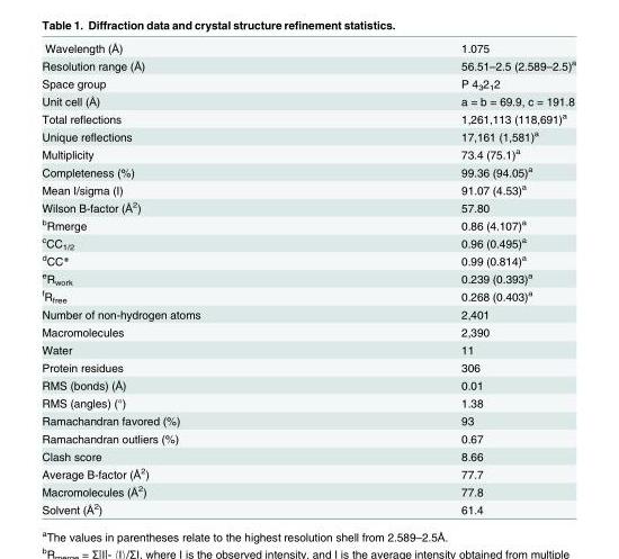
<table><tbody><tr><td>Wavelength (Å)</td><td>1.075</td></tr><tr><td>Resolution range (Å)</td><td>56.51–2.5 (2.589–2.5)<sup>a</sup></td></tr><tr><td>Space group</td><td>P 4<sub>3</sub>2<sub>1</sub>2</td></tr><tr><td>Unit cell (Å)</td><td>a = b = 69.9, c = 191.8</td></tr><tr><td>Total reflections</td><td>1,261,113 (118,691)<sup>a</sup></td></tr><tr><td>Unique reflections</td><td>17,161 (1,581)<sup>a</sup></td></tr><tr><td>Multiplicity</td><td>73.4 (75.1)<sup>a</sup></td></tr><tr><td>Completeness (%)</td><td>99.36 (94.05)<sup>a</sup></td></tr><tr><td>Mean I/sigma (I)</td><td>91.07 (4.53)<sup>a</sup></td></tr><tr><td>Wilson B-factor (Å<sup>2</sup>)</td><td>57.80</td></tr><tr><td><sup>b</sup>Rmerge</td><td>0.86 (4.107)<sup>a</sup></td></tr><tr><td><sup>c</sup>CC<sub>1/2</sub></td><td>0.96 (0.495)<sup>a</sup></td></tr><tr><td><sup>d</sup>CC*</td><td>0.99 (0.814)<sup>a</sup></td></tr><tr><td><sup>e</sup>R<sub>work</sub></td><td>0.239 (0.393)<sup>a</sup></td></tr><tr><td><sup>f</sup>R<sub>free</sub></td><td>0.268 (0.403)<sup>a</sup></td></tr><tr><td>Number of non-hydrogen atoms</td><td>2,401</td></tr><tr><td>Macromolecules</td><td>2,390</td></tr><tr><td>Water</td><td>11</td></tr><tr><td>Protein residues</td><td>306</td></tr><tr><td>RMS (bonds) (Å)</td><td>0.01</td></tr><tr><td>RMS (angles) (°)</td><td>1.38</td></tr><tr><td>Ramachandran favored (%)</td><td>93</td></tr><tr><td>Ramachandran outliers (%)</td><td>0.67</td></tr><tr><td>Clash score</td><td>8.66</td></tr><tr><td>Average B-factor (Å<sup>2</sup>)</td><td>77.7</td></tr><tr><td>Macromolecules (Å<sup>2</sup>)</td><td>77.8</td></tr><tr><td>Solvent (Å<sup>2</sup>)</td><td>61.4</td></tr></tbody></table>